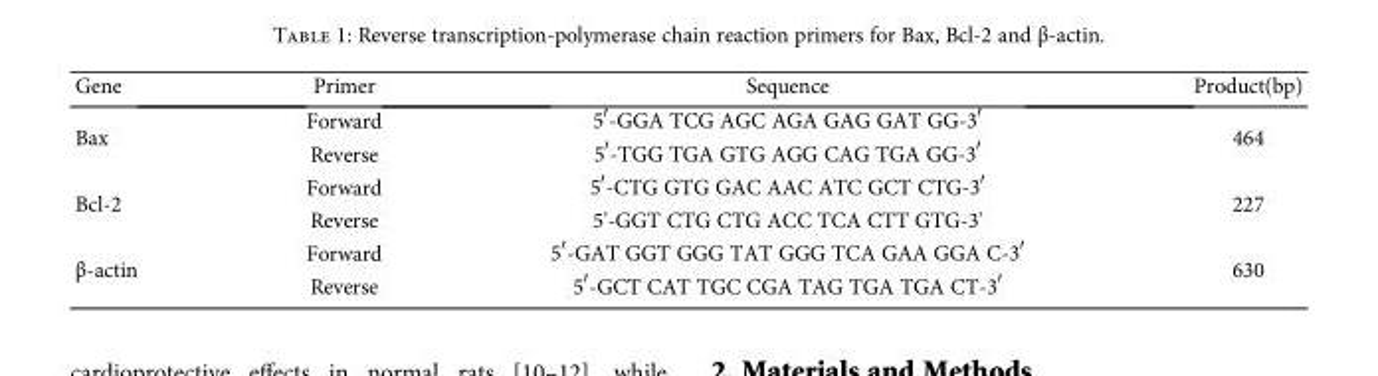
<table><thead><tr><td>Gene</td><td>Primer</td><td>Sequence</td><td>Product(bp)</td></tr></thead><tbody><tr><td rowspan="2">Bax</td><td>Forward</td><td>5′-GGA TCG AGC AGA GAG GAT GG-3′</td><td rowspan="2">464</td></tr><tr><td>Reverse</td><td>5′-TGG TGA GTG AGG CAG TGA GG-3′</td></tr><tr><td rowspan="2">Bcl-2</td><td>Forward</td><td>5′-CTG GTG GAC AAC ATC GCT CTG-3′</td><td rowspan="2">227</td></tr><tr><td>Reverse</td><td>5&#x27;-GGT CTG CTG ACC TCA CTT GTG-3&#x27;</td></tr><tr><td rowspan="2">β-actin</td><td>Forward</td><td>5′-GAT GGT GGG TAT GGG TCA GAA GGA C-3′</td><td rowspan="2">630</td></tr><tr><td>Reverse</td><td>5′-GCT CAT TGC CGA TAG TGA TGA CT-3′</td></tr></tbody></table>